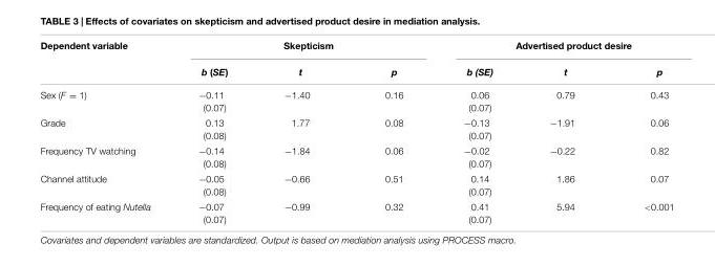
<table><thead><tr><td rowspan="2">Dependent variable</td><td colspan="3">Skepticism</td><td colspan="3">Advertised product desire</td></tr><tr><td>b (SE)</td><td>t</td><td>p</td><td>b (SE)</td><td>t</td><td>p</td></tr></thead><tbody><tr><td>Sex (F = 1)</td><td>−0.11 (0.07)</td><td>−1.40</td><td>0.16</td><td>0.06 (0.07)</td><td>0.79</td><td>0.43</td></tr><tr><td>Grade</td><td>0.13 (0.08)</td><td>1.77</td><td>0.08</td><td>−0.13 (0.07)</td><td>−1.91</td><td>0.06</td></tr><tr><td>Frequency TV watching</td><td>−0.14 (0.08)</td><td>−1.84</td><td>0.06</td><td>−0.02 (0.07)</td><td>−0.22</td><td>0.82</td></tr><tr><td>Channel attitude</td><td>−0.05 (0.08)</td><td>−0.66</td><td>0.51</td><td>0.14 (0.07)</td><td>1.86</td><td>0.07</td></tr><tr><td>Frequency of eating Nutella</td><td>−0.07 (0.07)</td><td>−0.99</td><td>0.32</td><td>0.41 (0.07)</td><td>5.94</td><td>&lt;0.001</td></tr></tbody></table>